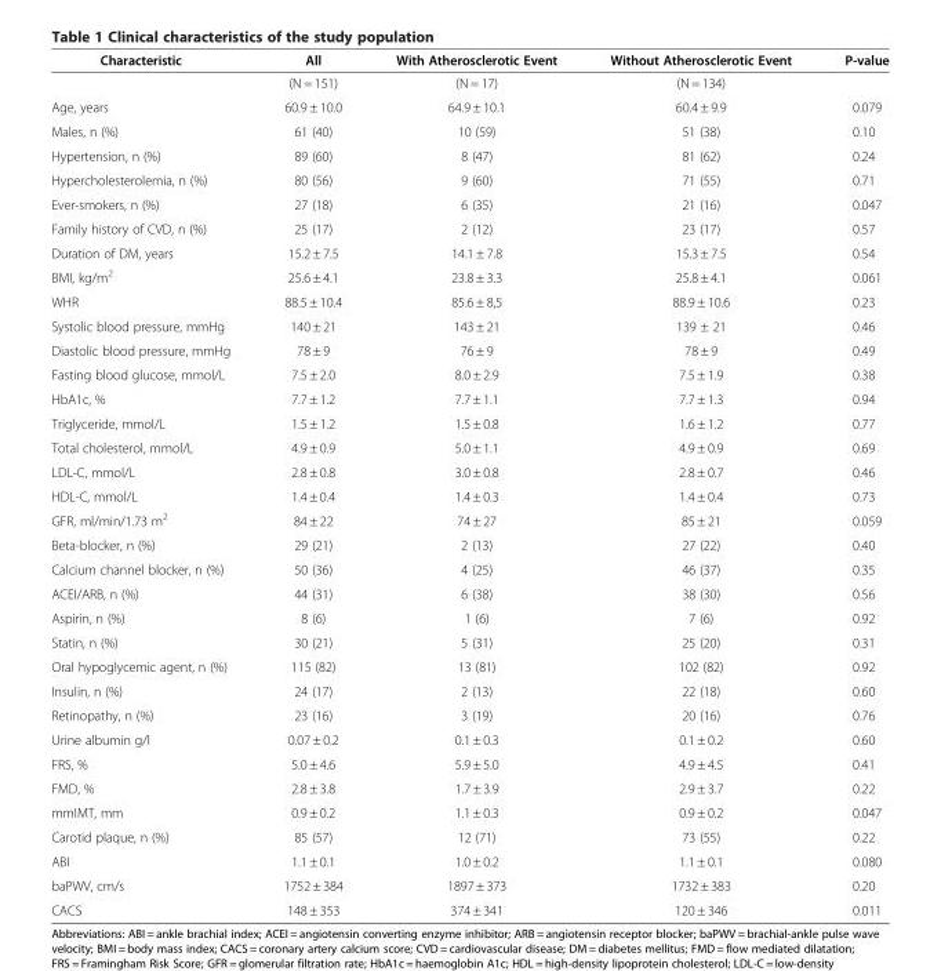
<table><thead><tr><td>Characteristic</td><td>All</td><td>With Atherosclerotic Event</td><td>Without Atherosclerotic Event</td><td>P-value</td></tr></thead><tbody><tr><td></td><td>(N = 151)</td><td>(N = 17)</td><td>(N = 134)</td><td></td></tr><tr><td>Age, years</td><td>60.9 ± 10.0</td><td>64.9 ± 10.1</td><td>60.4 ± 9.9</td><td>0.079</td></tr><tr><td>Males, n (%)</td><td>61 (40)</td><td>10 (59)</td><td>51 (38)</td><td>0.10</td></tr><tr><td>Hypertension, n (%)</td><td>89 (60)</td><td>8 (47)</td><td>81 (62)</td><td>0.24</td></tr><tr><td>Hypercholesterolemia, n (%)</td><td>80 (56)</td><td>9 (60)</td><td>71 (55)</td><td>0.71</td></tr><tr><td>Ever-smokers, n (%)</td><td>27 (18)</td><td>6 (35)</td><td>21 (16)</td><td>0.047</td></tr><tr><td>Family history of CVD, n (%)</td><td>25 (17)</td><td>2 (12)</td><td>23 (17)</td><td>0.57</td></tr><tr><td>Duration of DM, years</td><td>15.2 ± 7.5</td><td>14.1 ± 7.8</td><td>15.3 ± 7.5</td><td>0.54</td></tr><tr><td>BMI, kg/m<sup>2</sup></td><td>25.6 ± 4.1</td><td>23.8 ± 3.3</td><td>25.8 ± 4.1</td><td>0.061</td></tr><tr><td>WHR</td><td>88.5 ± 10.4</td><td>85.6 ± 8,5</td><td>88.9 ± 10.6</td><td>0.23</td></tr><tr><td>Systolic blood pressure, mmHg</td><td>140 ± 21</td><td>143 ± 21</td><td>139 ± 21</td><td>0.46</td></tr><tr><td>Diastolic blood pressure, mmHg</td><td>78 ± 9</td><td>76 ± 9</td><td>78 ± 9</td><td>0.49</td></tr><tr><td>Fasting blood glucose, mmol/L</td><td>7.5 ± 2.0</td><td>8.0 ± 2.9</td><td>7.5 ± 1.9</td><td>0.38</td></tr><tr><td>HbA1c, %</td><td>7.7 ± 1.2</td><td>7.7 ± 1.1</td><td>7.7 ± 1.3</td><td>0.94</td></tr><tr><td>Triglyceride, mmol/L</td><td>1.5 ± 1.2</td><td>1.5 ± 0.8</td><td>1.6 ± 1.2</td><td>0.77</td></tr><tr><td>Total cholesterol, mmol/L</td><td>4.9 ± 0.9</td><td>5.0 ± 1.1</td><td>4.9 ± 0.9</td><td>0.69</td></tr><tr><td>LDL-C, mmol/L</td><td>2.8 ± 0.8</td><td>3.0 ± 0.8</td><td>2.8 ± 0.7</td><td>0.46</td></tr><tr><td>HDL-C, mmol/L</td><td>1.4 ± 0.4</td><td>1.4 ± 0.3</td><td>1.4 ± 0.4</td><td>0.73</td></tr><tr><td>GFR, ml/min/1.73 m<sup>2</sup></td><td>84 ± 22</td><td>74 ± 27</td><td>85 ± 21</td><td>0.059</td></tr><tr><td>Beta-blocker, n (%)</td><td>29 (21)</td><td>2 (13)</td><td>27 (22)</td><td>0.40</td></tr><tr><td>Calcium channel blocker, n (%)</td><td>50 (36)</td><td>4 (25)</td><td>46 (37)</td><td>0.35</td></tr><tr><td>ACEI/ARB, n (%)</td><td>44 (31)</td><td>6 (38)</td><td>38 (30)</td><td>0.56</td></tr><tr><td>Aspirin, n (%)</td><td>8 (6)</td><td>1 (6)</td><td>7 (6)</td><td>0.92</td></tr><tr><td>Statin, n (%)</td><td>30 (21)</td><td>5 (31)</td><td>25 (20)</td><td>0.31</td></tr><tr><td>Oral hypoglycemic agent, n (%)</td><td>115 (82)</td><td>13 (81)</td><td>102 (82)</td><td>0.92</td></tr><tr><td>Insulin, n (%)</td><td>24 (17)</td><td>2 (13)</td><td>22 (18)</td><td>0.60</td></tr><tr><td>Retinopathy, n (%)</td><td>23 (16)</td><td>3 (19)</td><td>20 (16)</td><td>0.76</td></tr><tr><td>Urine albumin g/l</td><td>0.07 ± 0.2</td><td>0.1 ± 0.3</td><td>0.1 ± 0.2</td><td>0.60</td></tr><tr><td>FRS, %</td><td>5.0 ± 4.6</td><td>5.9 ± 5.0</td><td>4.9 ± 4.5</td><td>0.41</td></tr><tr><td>FMD, %</td><td>2.8 ± 3.8</td><td>1.7 ± 3.9</td><td>2.9 ± 3.7</td><td>0.22</td></tr><tr><td>mmIMT, mm</td><td>0.9 ± 0.2</td><td>1.1 ± 0.3</td><td>0.9 ± 0.2</td><td>0.047</td></tr><tr><td>Carotid plaque, n (%)</td><td>85 (57)</td><td>12 (71)</td><td>73 (55)</td><td>0.22</td></tr><tr><td>ABI</td><td>1.1 ± 0.1</td><td>1.0 ± 0.2</td><td>1.1 ± 0.1</td><td>0.080</td></tr><tr><td>baPWV, cm/s</td><td>1752 ± 384</td><td>1897 ± 373</td><td>1732 ± 383</td><td>0.20</td></tr><tr><td>CACS</td><td>148 ± 353</td><td>374 ± 341</td><td>120 ± 346</td><td>0.011</td></tr></tbody></table>